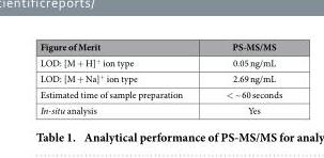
<table><thead><tr><td>Figure of Merit</td><td>PS-MS/MS</td></tr></thead><tbody><tr><td>LOD: [M + H]<sup>+</sup> ion type</td><td>0.05 ng/mL</td></tr><tr><td>LOD: [M + Na]<sup>+</sup> ion type</td><td>2.69 ng/mL</td></tr><tr><td>Estimated time of sample preparation</td><td>&lt; ~ 60 seconds</td></tr><tr><td>In-situ analysis</td><td>Yes</td></tr></tbody></table>